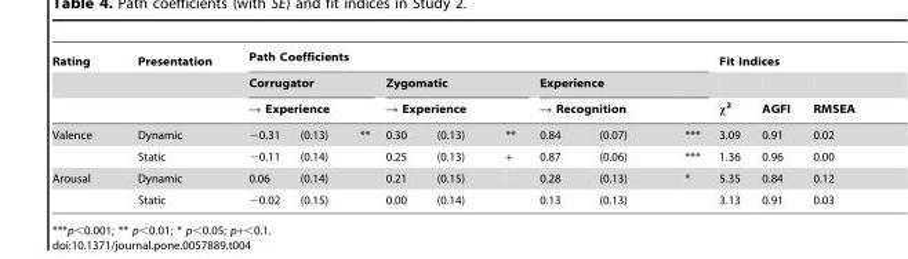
<table><thead><tr><td rowspan="4">Rating Valence</td><td rowspan="4">Presentation Dynamic</td><td colspan="9">Path Coefficients</td><td colspan="3">Fit Indices</td></tr><tr><td rowspan="2" colspan="3">Corrugator → Experience</td><td rowspan="2" colspan="3">Zygomatic → Experience</td><td colspan="3">Experience</td><td rowspan="3">χ<sup>2</sup> 3.09</td><td rowspan="3">AGFI 0.91</td><td rowspan="3">RMSEA 0.02</td></tr><tr><td colspan="2">→ Recognition</td><td rowspan="2">***</td></tr><tr><td>−0.31</td><td>(0.13)</td><td>**</td><td>0.30</td><td>(0.13)</td><td>**</td><td>0.84</td><td>(0.07)</td></tr></thead><tbody><tr><td></td><td>Static</td><td>−0.11</td><td>(0.14)</td><td></td><td>0.25</td><td>(0.13)</td><td>+</td><td>0.87</td><td>(0.06)</td><td>***</td><td>1.36</td><td>0.96</td><td>0.00</td></tr><tr><td rowspan="2">Arousal</td><td>Dynamic</td><td>0.06</td><td>(0.14)</td><td></td><td>0.21</td><td>(0.15)</td><td></td><td>0.28</td><td>(0.13)</td><td>*</td><td>5.35</td><td>0.84</td><td>0.12</td></tr><tr><td>Static</td><td>−0.02</td><td>(0.15)</td><td></td><td>0.00</td><td>(0.14)</td><td></td><td>0.13</td><td>(0.13)</td><td></td><td>3.13</td><td>0.91</td><td>0.03</td></tr></tbody></table>